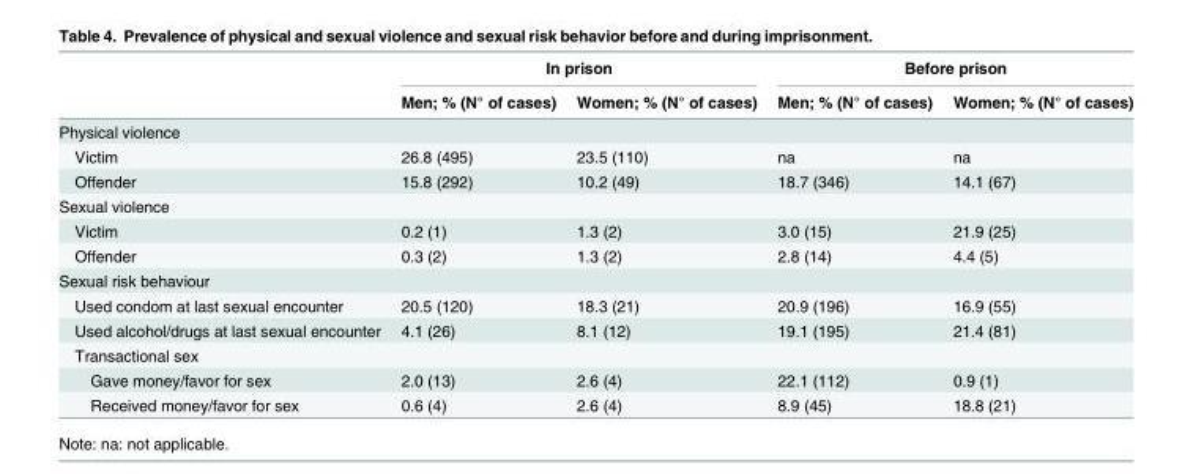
<table><thead><tr><td rowspan="2"></td><td colspan="2">In prison</td><td colspan="2">Before prison</td></tr><tr><td>Men; % (N° of cases)</td><td>Women; % (N° of cases)</td><td>Men; % (N° of cases)</td><td>Women; % (N° of cases)</td></tr></thead><tbody><tr><td colspan="5">Physical violence</td></tr><tr><td>Victim</td><td>26.8 (495)</td><td>23.5 (110)</td><td>na</td><td>na</td></tr><tr><td>Offender</td><td>15.8 (292)</td><td>10.2 (49)</td><td>18.7 (346)</td><td>14.1 (67)</td></tr><tr><td colspan="5">Sexual violence</td></tr><tr><td>Victim</td><td>0.2 (1)</td><td>1.3 (2)</td><td>3.0 (15)</td><td>21.9 (25)</td></tr><tr><td>Offender</td><td>0.3 (2)</td><td>1.3 (2)</td><td>2.8 (14)</td><td>4.4 (5)</td></tr><tr><td colspan="5">Sexual risk behaviour</td></tr><tr><td>Used condom at last sexual encounter</td><td>20.5 (120)</td><td>18.3 (21)</td><td>20.9 (196)</td><td>16.9 (55)</td></tr><tr><td>Used alcohol/drugs at last sexual encounter</td><td>4.1 (26)</td><td>8.1 (12)</td><td>19.1 (195)</td><td>21.4 (81)</td></tr><tr><td colspan="5">Transactional sex</td></tr><tr><td>Gave money/favor for sex</td><td>2.0 (13)</td><td>2.6 (4)</td><td>22.1 (112)</td><td>0.9 (1)</td></tr><tr><td>Received money/favor for sex</td><td>0.6 (4)</td><td>2.6 (4)</td><td>8.9 (45)</td><td>18.8 (21)</td></tr></tbody></table>